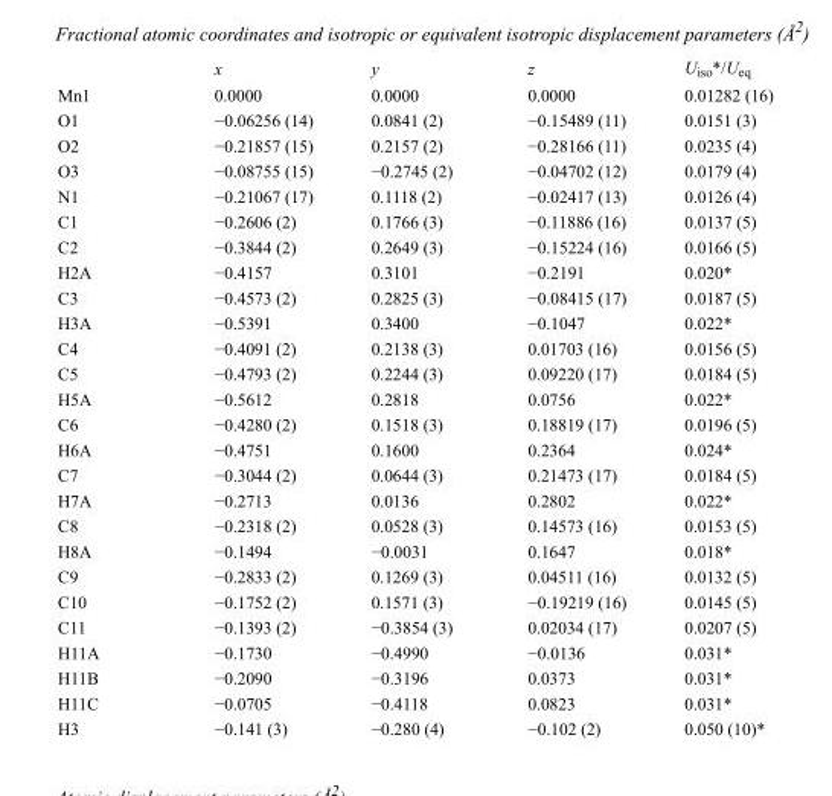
<table><thead><tr><td></td><td>x</td><td>y</td><td>z</td><td>U<sub>iso</sub>*/U<sub>eq</sub></td></tr></thead><tbody><tr><td>Mn1</td><td>0.0000</td><td>0.0000</td><td>0.0000</td><td>0.01282 (16)</td></tr><tr><td>O1</td><td>−0.06256 (14)</td><td>0.0841 (2)</td><td>−0.15489 (11)</td><td>0.0151 (3)</td></tr><tr><td>O2</td><td>−0.21857 (15)</td><td>0.2157 (2)</td><td>−0.28166 (11)</td><td>0.0235 (4)</td></tr><tr><td>O3</td><td>−0.08755 (15)</td><td>−0.2745 (2)</td><td>−0.04702 (12)</td><td>0.0179 (4)</td></tr><tr><td>N1</td><td>−0.21067 (17)</td><td>0.1118 (2)</td><td>−0.02417 (13)</td><td>0.0126 (4)</td></tr><tr><td>C1</td><td>−0.2606 (2)</td><td>0.1766 (3)</td><td>−0.11886 (16)</td><td>0.0137 (5)</td></tr><tr><td>C2</td><td>−0.3844 (2)</td><td>0.2649 (3)</td><td>−0.15224 (16)</td><td>0.0166 (5)</td></tr><tr><td>H2A</td><td>−0.4157</td><td>0.3101</td><td>−0.2191</td><td>0.020*</td></tr><tr><td>C3</td><td>−0.4573 (2)</td><td>0.2825 (3)</td><td>−0.08415 (17)</td><td>0.0187 (5)</td></tr><tr><td>H3A</td><td>−0.5391</td><td>0.3400</td><td>−0.1047</td><td>0.022*</td></tr><tr><td>C4</td><td>−0.4091 (2)</td><td>0.2138 (3)</td><td>0.01703 (16)</td><td>0.0156 (5)</td></tr><tr><td>C5</td><td>−0.4793 (2)</td><td>0.2244 (3)</td><td>0.09220 (17)</td><td>0.0184 (5)</td></tr><tr><td>H5A</td><td>−0.5612</td><td>0.2818</td><td>0.0756</td><td>0.022*</td></tr><tr><td>C6</td><td>−0.4280 (2)</td><td>0.1518 (3)</td><td>0.18819 (17)</td><td>0.0196 (5)</td></tr><tr><td>H6A</td><td>−0.4751</td><td>0.1600</td><td>0.2364</td><td>0.024*</td></tr><tr><td>C7</td><td>−0.3044 (2)</td><td>0.0644 (3)</td><td>0.21473 (17)</td><td>0.0184 (5)</td></tr><tr><td>H7A</td><td>−0.2713</td><td>0.0136</td><td>0.2802</td><td>0.022*</td></tr><tr><td>C8</td><td>−0.2318 (2)</td><td>0.0528 (3)</td><td>0.14573 (16)</td><td>0.0153 (5)</td></tr><tr><td>H8A</td><td>−0.1494</td><td>−0.0031</td><td>0.1647</td><td>0.018*</td></tr><tr><td>C9</td><td>−0.2833 (2)</td><td>0.1269 (3)</td><td>0.04511 (16)</td><td>0.0132 (5)</td></tr><tr><td>C10</td><td>−0.1752 (2)</td><td>0.1571 (3)</td><td>−0.19219 (16)</td><td>0.0145 (5)</td></tr><tr><td>C11</td><td>−0.1393 (2)</td><td>−0.3854 (3)</td><td>0.02034 (17)</td><td>0.0207 (5)</td></tr><tr><td>H11A</td><td>−0.1730</td><td>−0.4990</td><td>−0.0136</td><td>0.031*</td></tr><tr><td>H11B</td><td>−0.2090</td><td>−0.3196</td><td>0.0373</td><td>0.031*</td></tr><tr><td>H11C</td><td>−0.0705</td><td>−0.4118</td><td>0.0823</td><td>0.031*</td></tr><tr><td>H3</td><td>−0.141 (3)</td><td>−0.280 (4)</td><td>−0.102 (2)</td><td>0.050 (10)*</td></tr></tbody></table>